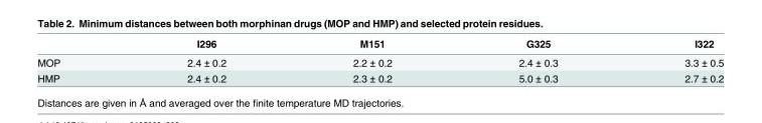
<table><thead><tr><td></td><td>I296</td><td>M151</td><td>G325</td><td>I322</td></tr></thead><tbody><tr><td>MOP</td><td>2.4 ± 0.2</td><td>2.2 ± 0.2</td><td>2.4 ± 0.3</td><td>3.3 ± 0.5</td></tr><tr><td>HMP</td><td>2.4 ± 0.2</td><td>2.3 ± 0.2</td><td>5.0 ± 0.3</td><td>2.7 ± 0.2</td></tr></tbody></table>